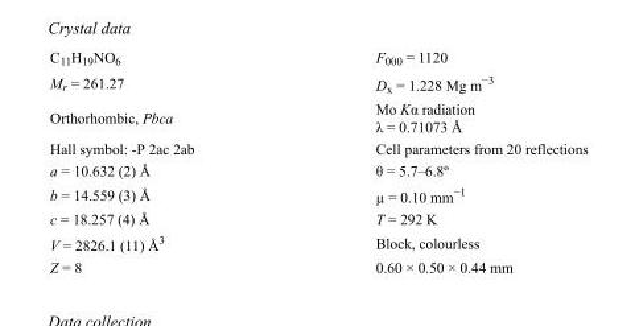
<table><tbody><tr><td>C<sub>11</sub>H<sub>19</sub>NO<sub>6</sub></td><td>F000 = 1120</td></tr><tr><td>M<sub>r</sub> = 261.27</td><td>D<sub>x</sub> = 1.228 Mg m<sup>−3</sup></td></tr><tr><td>Orthorhombic, Pbca</td><td>Mo Kα radiation λ = 0.71073 Å</td></tr><tr><td>Hall symbol: -P 2ac 2ab</td><td>Cell parameters from 20 reflections</td></tr><tr><td>a = 10.632 (2) Å</td><td>θ = 5.7–6.8º</td></tr><tr><td>b = 14.559 (3) Å</td><td>µ = 0.10 mm<sup>−1</sup></td></tr><tr><td>c = 18.257 (4) Å</td><td>T = 292 K</td></tr><tr><td>V = 2826.1 (11) Å<sup>3</sup></td><td>Block, colourless</td></tr><tr><td>Z = 8</td><td>0.60 × 0.50 × 0.44 mm</td></tr></tbody></table>